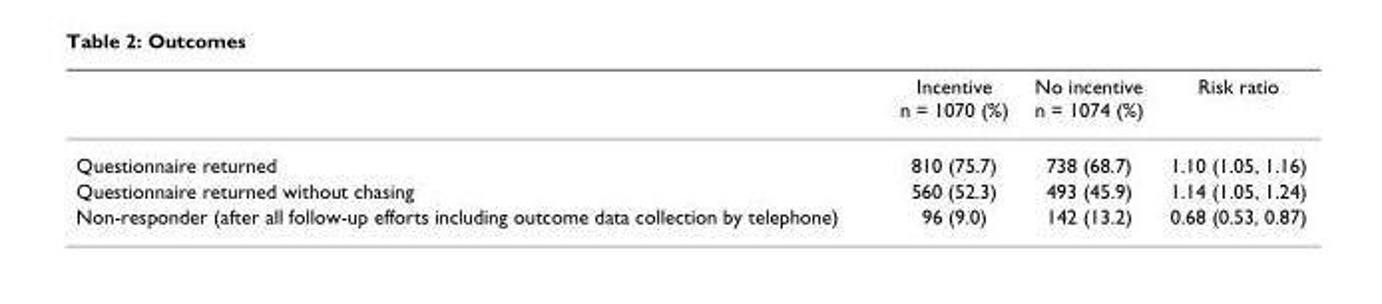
<table><thead><tr><td></td><td>Incentive n = 1070 (%)</td><td>No incentive n = 1074 (%)</td><td>Risk ratio</td></tr></thead><tbody><tr><td>Questionnaire returned</td><td>810 (75.7)</td><td>738 (68.7)</td><td>1.10 (1.05, 1.16)</td></tr><tr><td>Questionnaire returned without chasing</td><td>560 (52.3)</td><td>493 (45.9)</td><td>1.14 (1.05, 1.24)</td></tr><tr><td>Non-responder (after all follow-up efforts including outcome data collection by telephone)</td><td>96 (9.0)</td><td>142 (13.2)</td><td>0.68 (0.53, 0.87)</td></tr></tbody></table>